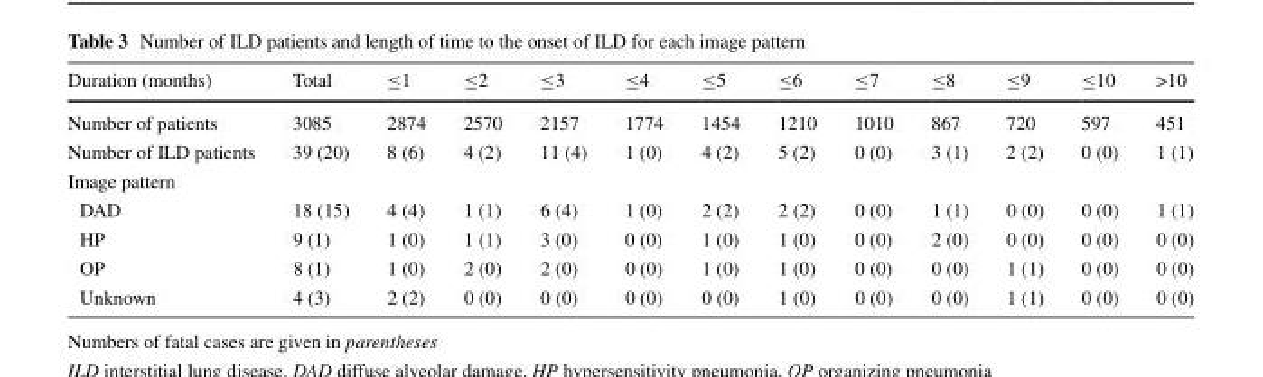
<table><thead><tr><td>Duration (months)</td><td>Total</td><td>≤1</td><td>≤2</td><td>≤3</td><td>≤4</td><td>≤5</td><td>≤6</td><td>≤7</td><td>≤8</td><td>≤9</td><td>≤10</td><td>&gt;10</td></tr></thead><tbody><tr><td>Number of patients</td><td>3085</td><td>2874</td><td>2570</td><td>2157</td><td>1774</td><td>1454</td><td>1210</td><td>1010</td><td>867</td><td>720</td><td>597</td><td>451</td></tr><tr><td>Number of ILD patients</td><td>39 (20)</td><td>8 (6)</td><td>4 (2)</td><td>11 (4)</td><td>1 (0)</td><td>4 (2)</td><td>5 (2)</td><td>0 (0)</td><td>3 (1)</td><td>2 (2)</td><td>0 (0)</td><td>1 (1)</td></tr><tr><td colspan="13">Image pattern</td></tr><tr><td>DAD</td><td>18 (15)</td><td>4 (4)</td><td>1 (1)</td><td>6 (4)</td><td>1 (0)</td><td>2 (2)</td><td>2 (2)</td><td>0 (0)</td><td>1 (1)</td><td>0 (0)</td><td>0 (0)</td><td>1 (1)</td></tr><tr><td>HP</td><td>9 (1)</td><td>1 (0)</td><td>1 (1)</td><td>3 (0)</td><td>0 (0)</td><td>1 (0)</td><td>1 (0)</td><td>0 (0)</td><td>2 (0)</td><td>0 (0)</td><td>0 (0)</td><td>0 (0)</td></tr><tr><td>OP</td><td>8 (1)</td><td>1 (0)</td><td>2 (0)</td><td>2 (0)</td><td>0 (0)</td><td>1 (0)</td><td>1 (0)</td><td>0 (0)</td><td>0 (0)</td><td>1 (1)</td><td>0 (0)</td><td>0 (0)</td></tr><tr><td>Unknown</td><td>4 (3)</td><td>2 (2)</td><td>0 (0)</td><td>0 (0)</td><td>0 (0)</td><td>0 (0)</td><td>1 (0)</td><td>0 (0)</td><td>0 (0)</td><td>1 (1)</td><td>0 (0)</td><td>0 (0)</td></tr></tbody></table>